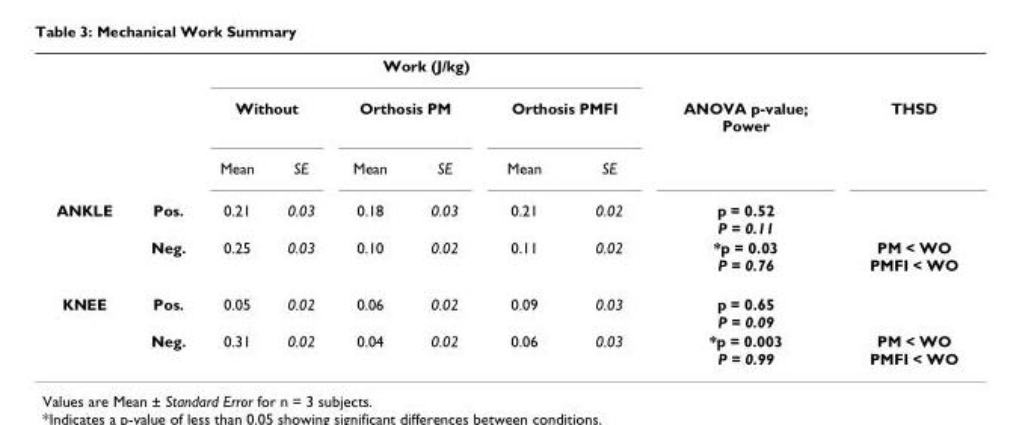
<table><thead><tr><td rowspan="3"></td><td rowspan="3"></td><td colspan="6">Work (J/kg)</td><td rowspan="3">ANOVA p-value; Power</td><td rowspan="3">THSD</td></tr><tr><td colspan="2">Without</td><td colspan="2">Orthosis PM</td><td colspan="2">Orthosis PMFI</td></tr><tr><td>Mean</td><td>SE</td><td>Mean</td><td>SE</td><td>Mean</td><td>SE</td></tr></thead><tbody><tr><td rowspan="2">ANKLE</td><td>Pos.</td><td>0.21</td><td>0.03</td><td>0.18</td><td>0.03</td><td>0.21</td><td>0.02</td><td>p = 0.52 P = 0.11</td><td></td></tr><tr><td>Neg.</td><td>0.25</td><td>0.03</td><td>0.10</td><td>0.02</td><td>0.11</td><td>0.02</td><td>*p = 0.03 P = 0.76</td><td>PM &lt; WO PMFI &lt; WO</td></tr><tr><td rowspan="2">KNEE</td><td>Pos.</td><td>0.05</td><td>0.02</td><td>0.06</td><td>0.02</td><td>0.09</td><td>0.03</td><td>p = 0.65 P = 0.09</td><td></td></tr><tr><td>Neg.</td><td>0.31</td><td>0.02</td><td>0.04</td><td>0.02</td><td>0.06</td><td>0.03</td><td>*p = 0.003 P = 0.99</td><td>PM &lt; WO PMFI &lt; WO</td></tr></tbody></table>